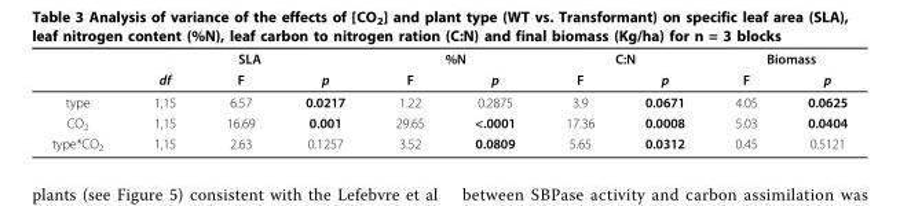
<table><thead><tr><td rowspan="2"></td><td colspan="3">SLA</td><td colspan="2">%N</td><td colspan="2">C:N</td><td colspan="2">Biomass</td></tr><tr><td>df</td><td>F</td><td>p</td><td>F</td><td>p</td><td>F</td><td>p</td><td>F</td><td>p</td></tr></thead><tbody><tr><td>type</td><td>1,15</td><td>6.57</td><td>0.0217</td><td>1.22</td><td>0.2875</td><td>3.9</td><td>0.0671</td><td>4.05</td><td>0.0625</td></tr><tr><td>CO<sub>2</sub></td><td>1,15</td><td>16.69</td><td>0.001</td><td>29.65</td><td>&lt;.0001</td><td>17.36</td><td>0.0008</td><td>5.03</td><td>0.0404</td></tr><tr><td>type*CO<sub>2</sub></td><td>1,15</td><td>2.63</td><td>0.1257</td><td>3.52</td><td>0.0809</td><td>5.65</td><td>0.0312</td><td>0.45</td><td>0.5121</td></tr></tbody></table>